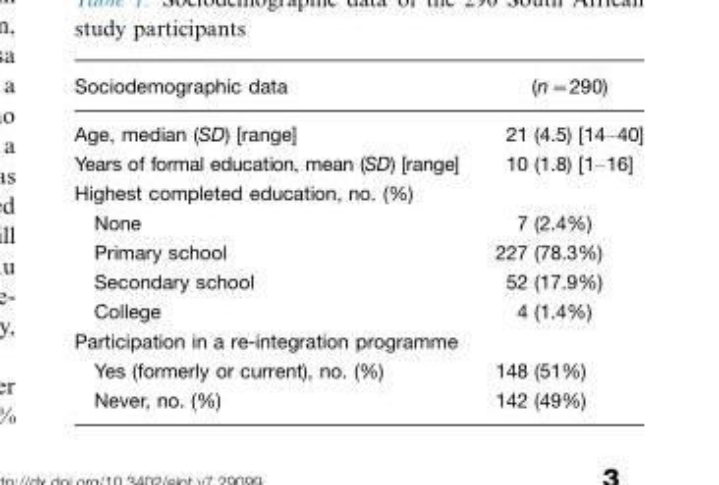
<table><thead><tr><td>Sociodemographic data</td><td>(n=290)</td></tr></thead><tbody><tr><td>Age, median (SD) [range]</td><td>21 (4.5) [14–40]</td></tr><tr><td>Years of formal education, mean (SD) [range]</td><td>10 (1.8) [1–16]</td></tr><tr><td colspan="2">Highest completed education, no. (%)</td></tr><tr><td>None</td><td>7 (2.4%)</td></tr><tr><td>Primary school</td><td>227 (78.3%)</td></tr><tr><td>Secondary school</td><td>52 (17.9%)</td></tr><tr><td>College</td><td>4 (1.4%)</td></tr><tr><td colspan="2">Participation in a re-integration programme</td></tr><tr><td>Yes (formerly or current), no. (%)</td><td>148 (51%)</td></tr><tr><td>Never, no. (%)</td><td>142 (49%)</td></tr></tbody></table>